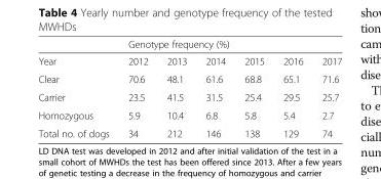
<table><thead><tr><td rowspan="2">Year</td><td colspan="6">Genotype frequency (%)</td></tr><tr><td>2012</td><td>2013</td><td>2014</td><td>2015</td><td>2016</td><td>2017</td></tr></thead><tbody><tr><td>Clear</td><td>70.6</td><td>48.1</td><td>61.6</td><td>68.8</td><td>65.1</td><td>71.6</td></tr><tr><td>Carrier</td><td>23.5</td><td>41.5</td><td>31.5</td><td>25.4</td><td>29.5</td><td>25.7</td></tr><tr><td>Homozygous</td><td>5.9</td><td>10.4</td><td>6.8</td><td>5.8</td><td>5.4</td><td>2.7</td></tr><tr><td>Total no. of dogs</td><td>34</td><td>212</td><td>146</td><td>138</td><td>129</td><td>74</td></tr></tbody></table>